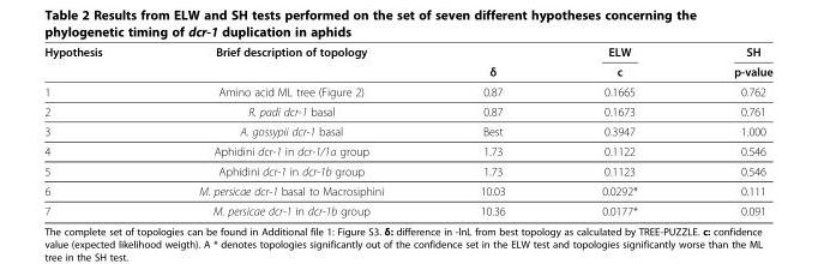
<table><thead><tr><td rowspan="2">Hypothesis</td><td rowspan="2">Brief description of topology</td><td rowspan="2">δ</td><td rowspan="2">ELW c</td><td rowspan="2">SH p-value</td></tr><tr></tr></thead><tbody><tr><td>1</td><td>Amino acid ML tree (Figure 2)</td><td>0.87</td><td>0.1665</td><td>0.762</td></tr><tr><td>2</td><td>R. padi dcr-1 basal</td><td>0.87</td><td>0.1673</td><td>0.761</td></tr><tr><td>3</td><td>A. gossypii dcr-1 basal</td><td>Best</td><td>0.3947</td><td>1.000</td></tr><tr><td>4</td><td>Aphidini dcr-1 in dcr-1/1a group</td><td>1.73</td><td>0.1122</td><td>0.546</td></tr><tr><td>5</td><td>Aphidini dcr-1 in dcr-1b group</td><td>1.73</td><td>0.1123</td><td>0.546</td></tr><tr><td>6</td><td>M. persicae dcr-1 basal to Macrosiphini</td><td>10.03</td><td>0.0292*</td><td>0.111</td></tr><tr><td>7</td><td>M. persicae dcr-1 in dcr-1b group</td><td>10.36</td><td>0.0177*</td><td>0.091</td></tr></tbody></table>